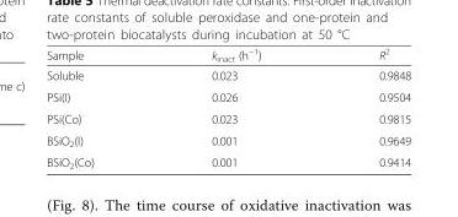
<table><thead><tr><td>Sample</td><td>k<sub>inact</sub> (h<sup>−1</sup>)</td><td>R<sup>2</sup></td></tr></thead><tbody><tr><td>Soluble</td><td>0.023</td><td>0.9848</td></tr><tr><td>PSi(I)</td><td>0.026</td><td>0.9504</td></tr><tr><td>PSi(Co)</td><td>0.023</td><td>0.9815</td></tr><tr><td>BSiO<sub>2</sub>(I)</td><td>0.001</td><td>0.9649</td></tr><tr><td>BSiO<sub>2</sub>(Co)</td><td>0.001</td><td>0.9414</td></tr></tbody></table>